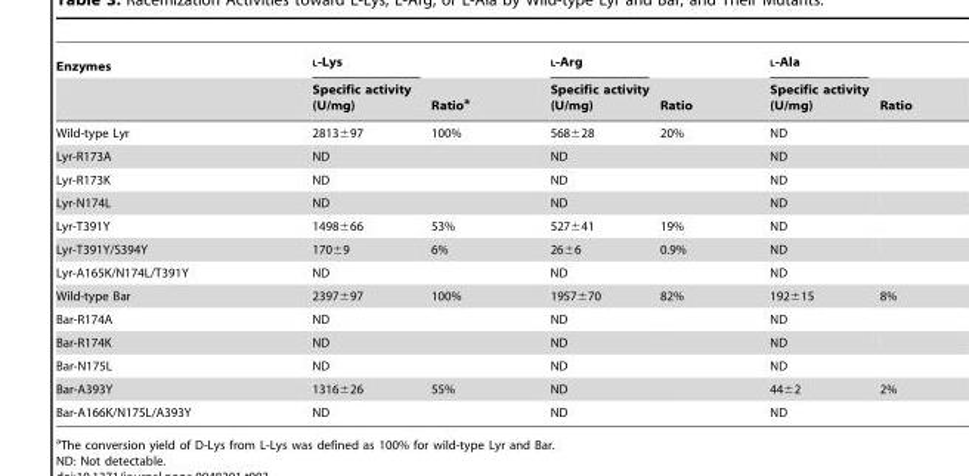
<table><thead><tr><td rowspan="2">Enzymes</td><td rowspan="2">L-Lys Specific activity (U/mg)</td><td rowspan="2">Ratio<sup>a</sup></td><td rowspan="2">L-Arg Specific activity (U/mg)</td><td rowspan="2">Ratio</td><td rowspan="2">L-Ala Specific activity (U/mg)</td><td rowspan="2">Ratio</td></tr><tr></tr></thead><tbody><tr><td>Wild-type Lyr</td><td>2813±97</td><td>100%</td><td>568±28</td><td>20%</td><td>ND</td><td></td></tr><tr><td>Lyr-R173A</td><td>ND</td><td></td><td>ND</td><td></td><td>ND</td><td></td></tr><tr><td>Lyr-R173K</td><td>ND</td><td></td><td>ND</td><td></td><td>ND</td><td></td></tr><tr><td>Lyr-N174L</td><td>ND</td><td></td><td>ND</td><td></td><td>ND</td><td></td></tr><tr><td>Lyr-T391Y</td><td>1498±66</td><td>53%</td><td>527±41</td><td>19%</td><td>ND</td><td></td></tr><tr><td>Lyr-T391Y/S394Y</td><td>170±9</td><td>6%</td><td>26±6</td><td>0.9%</td><td>ND</td><td></td></tr><tr><td>Lyr-A165K/N174L/T391Y</td><td>ND</td><td></td><td>ND</td><td></td><td>ND</td><td></td></tr><tr><td>Wild-type Bar</td><td>2397±97</td><td>100%</td><td>1957±70</td><td>82%</td><td>192±15</td><td>8%</td></tr><tr><td>Bar-R174A</td><td>ND</td><td></td><td>ND</td><td></td><td>ND</td><td></td></tr><tr><td>Bar-R174K</td><td>ND</td><td></td><td>ND</td><td></td><td>ND</td><td></td></tr><tr><td>Bar-N175L</td><td>ND</td><td></td><td>ND</td><td></td><td>ND</td><td></td></tr><tr><td>Bar-A393Y</td><td>1316±26</td><td>55%</td><td>ND</td><td></td><td>44±2</td><td>2%</td></tr><tr><td>Bar-A166K/N175L/A393Y</td><td>ND</td><td></td><td>ND</td><td></td><td>ND</td><td></td></tr></tbody></table>